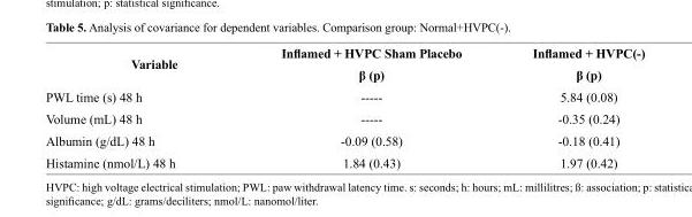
<table><thead><tr><td rowspan="2">Variable</td><td rowspan="2">Inflamed + HVPC Sham Placebo β (p)</td><td rowspan="2">Inflamed + HVPC(-) β (p)</td></tr><tr></tr></thead><tbody><tr><td>PWL time (s) 48 h</td><td>-----</td><td>5.84 (0.08)</td></tr><tr><td>Volume (mL) 48 h</td><td>-----</td><td>-0.35 (0.24)</td></tr><tr><td>Albumin (g/dL) 48 h</td><td>-0.09 (0.58)</td><td>-0.18 (0.41)</td></tr><tr><td>Histamine (nmol/L) 48 h</td><td>1.84 (0.43)</td><td>1.97 (0.42)</td></tr></tbody></table>